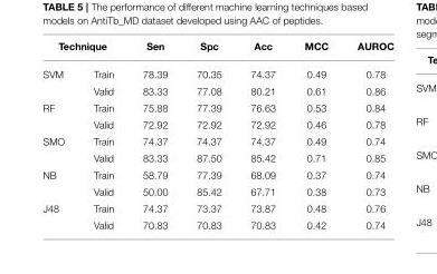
<table><thead><tr><td colspan="2">Technique</td><td rowspan="2">Sen 78.39</td><td rowspan="2">Spc 70.35</td><td rowspan="2">Acc 74.37</td><td rowspan="2">MCC 0.49</td><td rowspan="2">AUROC 0.78</td></tr><tr><td>SVM</td><td>Train</td></tr></thead><tbody><tr><td></td><td>Valid</td><td>83.33</td><td>77.08</td><td>80.21</td><td>0.61</td><td>0.86</td></tr><tr><td rowspan="2">RF</td><td>Train</td><td>75.88</td><td>77.39</td><td>76.63</td><td>0.53</td><td>0.84</td></tr><tr><td>Valid</td><td>72.92</td><td>72.92</td><td>72.92</td><td>0.46</td><td>0.78</td></tr><tr><td rowspan="2">SMO</td><td>Train</td><td>74.37</td><td>74.37</td><td>74.37</td><td>0.49</td><td>0.74</td></tr><tr><td>Valid</td><td>83.33</td><td>87.50</td><td>85.42</td><td>0.71</td><td>0.85</td></tr><tr><td rowspan="2">NB</td><td>Train</td><td>58.79</td><td>77.39</td><td>68.09</td><td>0.37</td><td>0.74</td></tr><tr><td>Valid</td><td>50.00</td><td>85.42</td><td>67.71</td><td>0.38</td><td>0.73</td></tr><tr><td rowspan="2">J48</td><td>Train</td><td>74.37</td><td>73.37</td><td>73.87</td><td>0.48</td><td>0.76</td></tr><tr><td>Valid</td><td>70.83</td><td>70.83</td><td>70.83</td><td>0.42</td><td>0.74</td></tr></tbody></table>